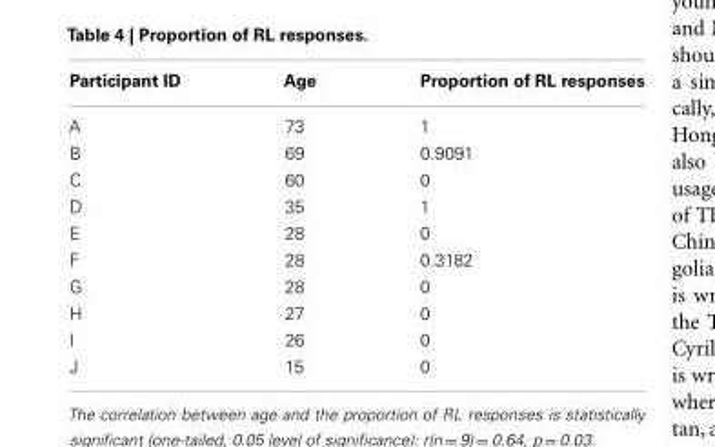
<table><thead><tr><td>Participant ID</td><td>Age</td><td>Proportion of RL responses</td></tr></thead><tbody><tr><td>A</td><td>73</td><td>1</td></tr><tr><td>B</td><td>69</td><td>0.9091</td></tr><tr><td>C</td><td>60</td><td>0</td></tr><tr><td>D</td><td>35</td><td>1</td></tr><tr><td>E</td><td>28</td><td>0</td></tr><tr><td>F</td><td>28</td><td>0.3182</td></tr><tr><td>G</td><td>28</td><td>0</td></tr><tr><td>H</td><td>27</td><td>0</td></tr><tr><td>I</td><td>26</td><td>0</td></tr><tr><td>J</td><td>15</td><td>0</td></tr></tbody></table>